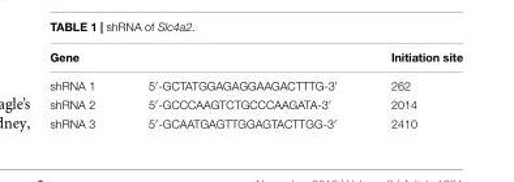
<table><thead><tr><td>Gene</td><td></td><td>Initiation site</td></tr></thead><tbody><tr><td>shRNA 1</td><td>5′-GCTATGGAGAGGAAGACTTTG-3′</td><td>262</td></tr><tr><td>shRNA 2</td><td>5′-GCCCAAGTCTGCCCAAGATA-3′</td><td>2014</td></tr><tr><td>shRNA 3</td><td>5′-GCAATGAGTTGGAGTACTTGG-3′</td><td>2410</td></tr></tbody></table>